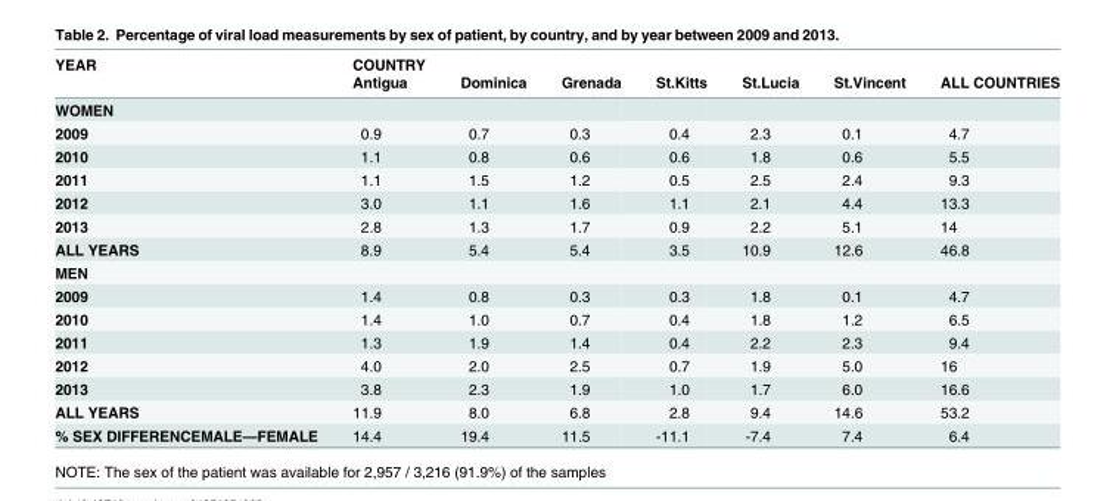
<table><thead><tr><td rowspan="2">YEAR</td><td rowspan="2">COUNTRY Antigua</td><td rowspan="2">Dominica</td><td rowspan="2">Grenada</td><td rowspan="2">St.Kitts</td><td rowspan="2">St.Lucia</td><td rowspan="2">St.Vincent</td><td rowspan="2">ALL COUNTRIES</td></tr><tr></tr></thead><tbody><tr><td colspan="8">WOMEN</td></tr><tr><td>2009</td><td>0.9</td><td>0.7</td><td>0.3</td><td>0.4</td><td>2.3</td><td>0.1</td><td>4.7</td></tr><tr><td>2010</td><td>1.1</td><td>0.8</td><td>0.6</td><td>0.6</td><td>1.8</td><td>0.6</td><td>5.5</td></tr><tr><td>2011</td><td>1.1</td><td>1.5</td><td>1.2</td><td>0.5</td><td>2.5</td><td>2.4</td><td>9.3</td></tr><tr><td>2012</td><td>3.0</td><td>1.1</td><td>1.6</td><td>1.1</td><td>2.1</td><td>4.4</td><td>13.3</td></tr><tr><td>2013</td><td>2.8</td><td>1.3</td><td>1.7</td><td>0.9</td><td>2.2</td><td>5.1</td><td>14</td></tr><tr><td>ALL YEARS</td><td>8.9</td><td>5.4</td><td>5.4</td><td>3.5</td><td>10.9</td><td>12.6</td><td>46.8</td></tr><tr><td colspan="8">MEN</td></tr><tr><td>2009</td><td>1.4</td><td>0.8</td><td>0.3</td><td>0.3</td><td>1.8</td><td>0.1</td><td>4.7</td></tr><tr><td>2010</td><td>1.4</td><td>1.0</td><td>0.7</td><td>0.4</td><td>1.8</td><td>1.2</td><td>6.5</td></tr><tr><td>2011</td><td>1.3</td><td>1.9</td><td>1.4</td><td>0.4</td><td>2.2</td><td>2.3</td><td>9.4</td></tr><tr><td>2012</td><td>4.0</td><td>2.0</td><td>2.5</td><td>0.7</td><td>1.9</td><td>5.0</td><td>16</td></tr><tr><td>2013</td><td>3.8</td><td>2.3</td><td>1.9</td><td>1.0</td><td>1.7</td><td>6.0</td><td>16.6</td></tr><tr><td>ALL YEARS</td><td>11.9</td><td>8.0</td><td>6.8</td><td>2.8</td><td>9.4</td><td>14.6</td><td>53.2</td></tr><tr><td>% SEX DIFFERENCEMALE—FEMALE</td><td>14.4</td><td>19.4</td><td>11.5</td><td>-11.1</td><td>-7.4</td><td>7.4</td><td>6.4</td></tr></tbody></table>